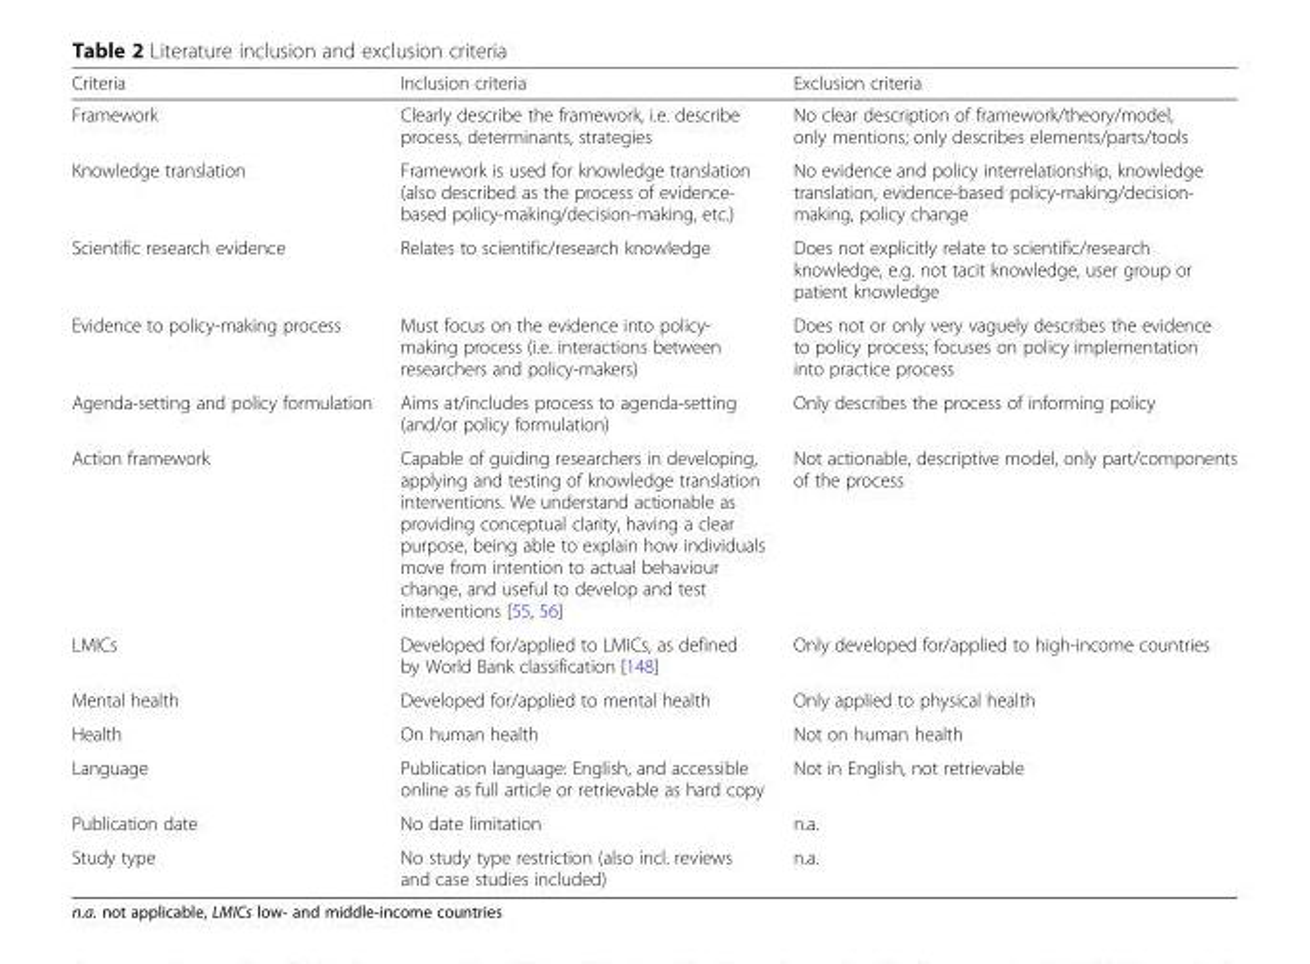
<table><thead><tr><td>Criteria</td><td>Inclusion criteria</td><td>Exclusion criteria</td></tr></thead><tbody><tr><td>Framework</td><td>Clearly describe the framework, i.e. describe process, determinants, strategies</td><td>No clear description of framework/theory/model, only mentions; only describes elements/parts/tools</td></tr><tr><td>Knowledge translation</td><td>Framework is used for knowledge translation (also described as the process of evidence- based policy-making/decision-making, etc.)</td><td>No evidence and policy interrelationship, knowledge translation, evidence-based policy-making/decision- making, policy change</td></tr><tr><td>Scientific research evidence</td><td>Relates to scientific/research knowledge</td><td>Does not explicitly relate to scientific/research knowledge, e.g. not tacit knowledge, user group or patient knowledge</td></tr><tr><td>Evidence to policy-making process</td><td>Must focus on the evidence into policy- making process (i.e. interactions between researchers and policy-makers)</td><td>Does not or only very vaguely describes the evidence to policy process; focuses on policy implementation into practice process</td></tr><tr><td>Agenda-setting and policy formulation</td><td>Aims at/includes process to agenda-setting (and/or policy formulation)</td><td>Only describes the process of informing policy</td></tr><tr><td>Action framework</td><td>Capable of guiding researchers in developing, applying and testing of knowledge translation interventions. We understand actionable as providing conceptual clarity, having a clear purpose, being able to explain how individuals move from intention to actual behaviour change, and useful to develop and test interventions [55, 56]</td><td>Not actionable, descriptive model, only part/components of the process</td></tr><tr><td>LMICs</td><td>Developed for/applied to LMICs, as defined by World Bank classification [148]</td><td>Only developed for/applied to high-income countries</td></tr><tr><td>Mental health</td><td>Developed for/applied to mental health</td><td>Only applied to physical health</td></tr><tr><td>Health</td><td>On human health</td><td>Not on human health</td></tr><tr><td>Language</td><td>Publication language: English, and accessible online as full article or retrievable as hard copy</td><td>Not in English, not retrievable</td></tr><tr><td>Publication date</td><td>No date limitation</td><td>n.a.</td></tr><tr><td>Study type</td><td>No study type restriction (also incl. reviews and case studies included)</td><td>n.a.</td></tr></tbody></table>